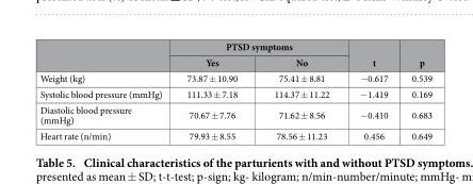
<table><thead><tr><td rowspan="2"></td><td colspan="2">PTSD symptoms</td><td rowspan="2">t</td><td rowspan="2">p</td></tr><tr><td>Yes</td><td>No</td></tr></thead><tbody><tr><td>Weight (kg)</td><td>73.87 ± 10.90</td><td>75.41 ± 8.81</td><td>− 0.617</td><td>0.539</td></tr><tr><td>Systolic blood pressure (mmHg)</td><td>111.33 ± 7.18</td><td>114.37 ± 11.22</td><td>− 1.419</td><td>0.169</td></tr><tr><td>Diastolic blood pressure (mmHg)</td><td>70.67 ± 7.76</td><td>71.62 ± 8.56</td><td>− 0.410</td><td>0.683</td></tr><tr><td>Heart rate (n/min)</td><td>79.93 ± 8.55</td><td>78.56 ± 11.23</td><td>0.456</td><td>0.649</td></tr></tbody></table>